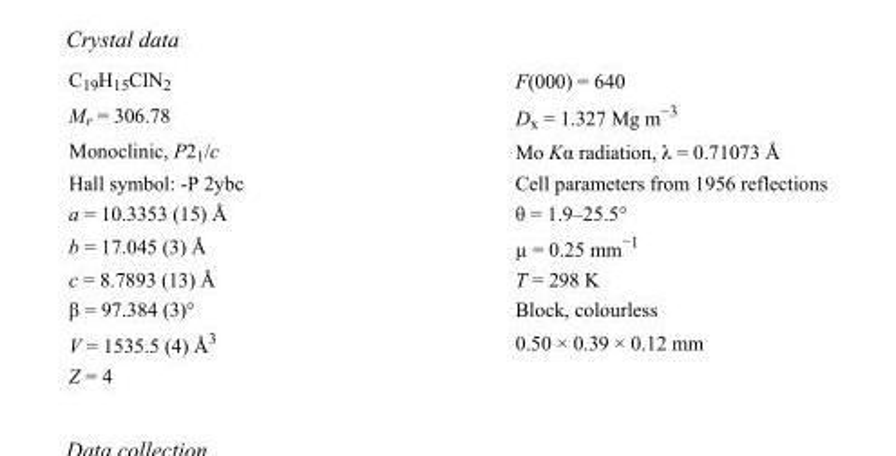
<table><tbody><tr><td>C<sub>19</sub>H<sub>15</sub>ClN<sub>2</sub></td><td>F(000) = 640</td></tr><tr><td>M<sub>r</sub> = 306.78</td><td>D<sub>x</sub> = 1.327 Mg m<sup>−3</sup></td></tr><tr><td>Monoclinic, P2<sub>1</sub>/c</td><td>Mo Kα radiation, λ = 0.71073 Å</td></tr><tr><td>Hall symbol: -P 2ybc</td><td>Cell parameters from 1956 reflections</td></tr><tr><td>a = 10.3353 (15) Å</td><td>θ = 1.9–25.5°</td></tr><tr><td>b = 17.045 (3) Å</td><td>µ = 0.25 mm<sup>−1</sup></td></tr><tr><td>c = 8.7893 (13) Å</td><td>T = 298 K</td></tr><tr><td>β = 97.384 (3)°</td><td>Block, colourless</td></tr><tr><td>V = 1535.5 (4) Å<sup>3</sup></td><td>0.50 × 0.39 × 0.12 mm</td></tr><tr><td>Z = 4</td><td></td></tr></tbody></table>